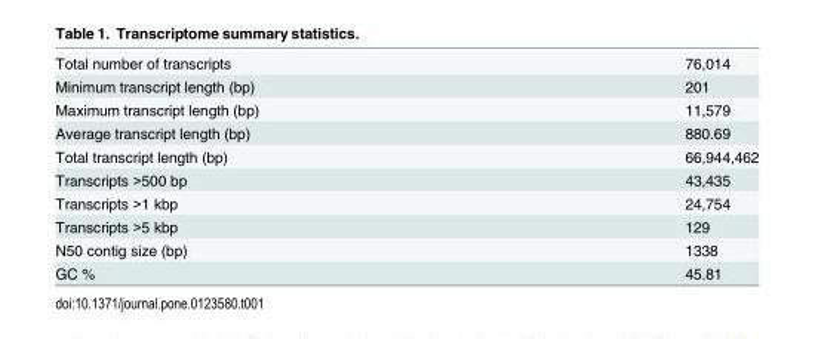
<table><tbody><tr><td>Total number of transcripts</td><td>76,014</td></tr><tr><td>Minimum transcript length (bp)</td><td>201</td></tr><tr><td>Maximum transcript length (bp)</td><td>11,579</td></tr><tr><td>Average transcript length (bp)</td><td>880.69</td></tr><tr><td>Total transcript length (bp)</td><td>66,944,462</td></tr><tr><td>Transcripts &gt;500 bp</td><td>43,435</td></tr><tr><td>Transcripts &gt;1 kbp</td><td>24,754</td></tr><tr><td>Transcripts &gt;5 kbp</td><td>129</td></tr><tr><td>N50 contig size (bp)</td><td>1338</td></tr><tr><td>GC %</td><td>45.81</td></tr></tbody></table>